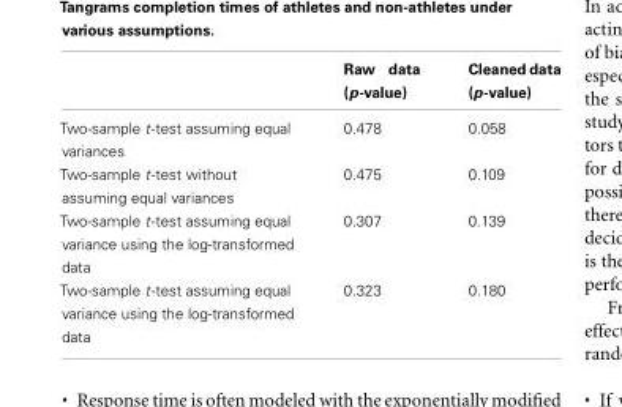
<table><thead><tr><td></td><td>Raw data (p-value)</td><td>Cleaned data (p-value)</td></tr></thead><tbody><tr><td>Two-sample t-test assuming equal variances</td><td>0.478</td><td>0.058</td></tr><tr><td>Two-sample t-test without assuming equal variances</td><td>0.475</td><td>0.109</td></tr><tr><td>Two-sample t-test assuming equal variance using the log-transformed data</td><td>0.307</td><td>0.139</td></tr><tr><td>Two-sample t-test assuming equal variance using the log-transformed data</td><td>0.323</td><td>0.180</td></tr></tbody></table>